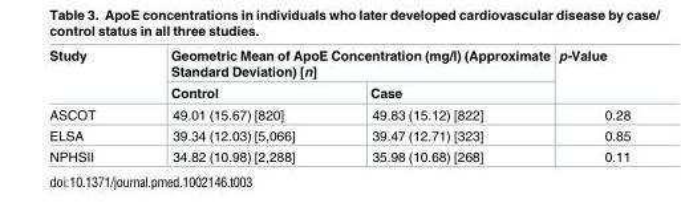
<table><thead><tr><td rowspan="2">Study</td><td colspan="2">Geometric Mean of ApoE Concentration (mg/l) (Approximate Standard Deviation) [n]</td><td rowspan="2">p-Value</td></tr><tr><td>Control</td><td>Case</td></tr></thead><tbody><tr><td>ASCOT</td><td>49.01 (15.67) [820]</td><td>49.83 (15.12) [822]</td><td>0.28</td></tr><tr><td>ELSA</td><td>39.34 (12.03) [5,066]</td><td>39.47 (12.71) [323]</td><td>0.85</td></tr><tr><td>NPHSII</td><td>34.82 (10.98) [2,288]</td><td>35.98 (10.68) [268]</td><td>0.11</td></tr></tbody></table>